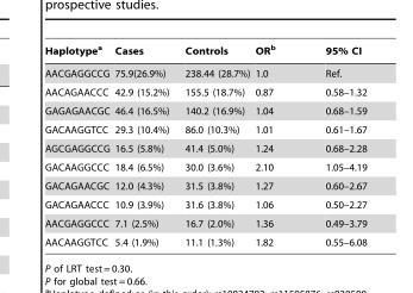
<table><thead><tr><td>Haplotype<sup>a</sup></td><td>Cases</td><td>Controls</td><td>OR<sup>b</sup></td><td>95% CI</td></tr></thead><tbody><tr><td>AACGAGGCCG</td><td>75.9(26.9%)</td><td>238.44 (28.7%)</td><td>1.0</td><td>Ref.</td></tr><tr><td>AACAGAACCC</td><td>42.9 (15.2%)</td><td>155.5 (18.7%)</td><td>0.87</td><td>0.58–1.32</td></tr><tr><td>GAGAGAACGC</td><td>46.4 (16.5%)</td><td>140.2 (16.9%)</td><td>1.04</td><td>0.68–1.59</td></tr><tr><td>GACAAGGTCC</td><td>29.3 (10.4%)</td><td>86.0 (10.3%)</td><td>1.01</td><td>0.61–1.67</td></tr><tr><td>AGCGAGGCCG</td><td>16.5 (5.8%)</td><td>41.4 (5.0%)</td><td>1.24</td><td>0.68–2.28</td></tr><tr><td>GACAAGGCCC</td><td>18.4 (6.5%)</td><td>30.0 (3.6%)</td><td>2.10</td><td>1.05–4.19</td></tr><tr><td>GACAGAACGC</td><td>12.0 (4.3%)</td><td>31.5 (3.8%)</td><td>1.27</td><td>0.60–2.67</td></tr><tr><td>GACAGAACCC</td><td>10.9 (3.9%)</td><td>31.6 (3.8%)</td><td>1.06</td><td>0.50–2.27</td></tr><tr><td>AACGAGGCCC</td><td>7.1 (2.5%)</td><td>16.7 (2.0%)</td><td>1.36</td><td>0.49–3.79</td></tr><tr><td>AACAAGGTCC</td><td>5.4 (1.9%)</td><td>11.1 (1.3%)</td><td>1.82</td><td>0.55–6.08</td></tr></tbody></table>